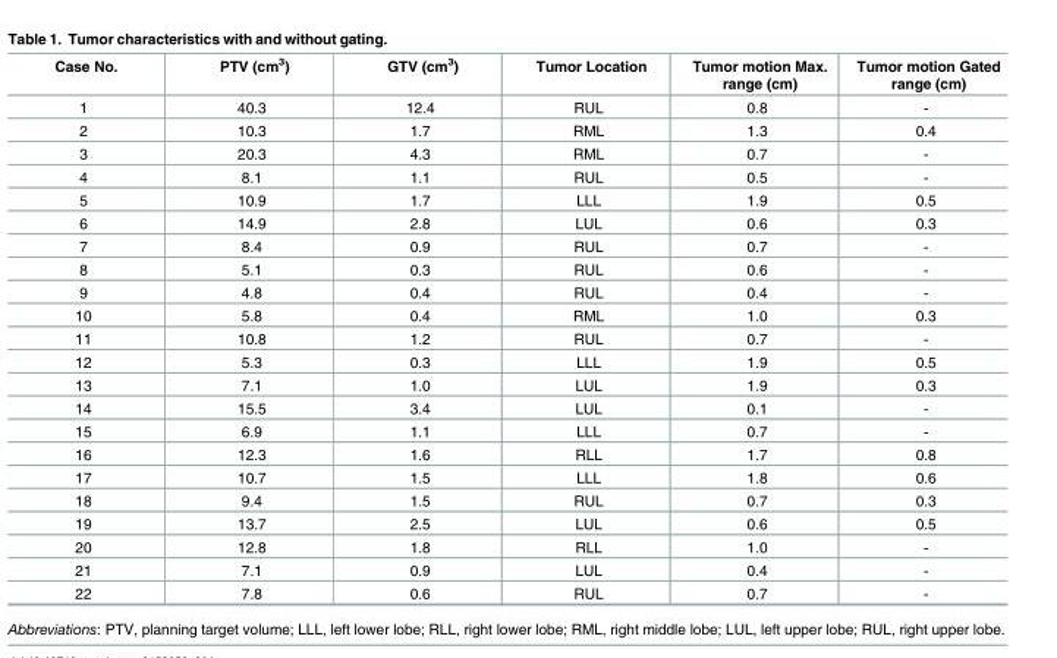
<table><thead><tr><td>Case No.</td><td>PTV (cm<sup>3</sup>)</td><td>GTV (cm<sup>3</sup>)</td><td>Tumor Location</td><td>Tumor motion Max. range (cm)</td><td>Tumor motion Gated range (cm)</td></tr></thead><tbody><tr><td>1</td><td>40.3</td><td>12.4</td><td>RUL</td><td>0.8</td><td>-</td></tr><tr><td>2</td><td>10.3</td><td>1.7</td><td>RML</td><td>1.3</td><td>0.4</td></tr><tr><td>3</td><td>20.3</td><td>4.3</td><td>RML</td><td>0.7</td><td>-</td></tr><tr><td>4</td><td>8.1</td><td>1.1</td><td>RUL</td><td>0.5</td><td>-</td></tr><tr><td>5</td><td>10.9</td><td>1.7</td><td>LLL</td><td>1.9</td><td>0.5</td></tr><tr><td>6</td><td>14.9</td><td>2.8</td><td>LUL</td><td>0.6</td><td>0.3</td></tr><tr><td>7</td><td>8.4</td><td>0.9</td><td>RUL</td><td>0.7</td><td>-</td></tr><tr><td>8</td><td>5.1</td><td>0.3</td><td>RUL</td><td>0.6</td><td>-</td></tr><tr><td>9</td><td>4.8</td><td>0.4</td><td>RUL</td><td>0.4</td><td>-</td></tr><tr><td>10</td><td>5.8</td><td>0.4</td><td>RML</td><td>1.0</td><td>0.3</td></tr><tr><td>11</td><td>10.8</td><td>1.2</td><td>RUL</td><td>0.7</td><td>-</td></tr><tr><td>12</td><td>5.3</td><td>0.3</td><td>LLL</td><td>1.9</td><td>0.5</td></tr><tr><td>13</td><td>7.1</td><td>1.0</td><td>LUL</td><td>1.9</td><td>0.3</td></tr><tr><td>14</td><td>15.5</td><td>3.4</td><td>LUL</td><td>0.1</td><td>-</td></tr><tr><td>15</td><td>6.9</td><td>1.1</td><td>LLL</td><td>0.7</td><td>-</td></tr><tr><td>16</td><td>12.3</td><td>1.6</td><td>RLL</td><td>1.7</td><td>0.8</td></tr><tr><td>17</td><td>10.7</td><td>1.5</td><td>LLL</td><td>1.8</td><td>0.6</td></tr><tr><td>18</td><td>9.4</td><td>1.5</td><td>RUL</td><td>0.7</td><td>0.3</td></tr><tr><td>19</td><td>13.7</td><td>2.5</td><td>LUL</td><td>0.6</td><td>0.5</td></tr><tr><td>20</td><td>12.8</td><td>1.8</td><td>RLL</td><td>1.0</td><td>-</td></tr><tr><td>21</td><td>7.1</td><td>0.9</td><td>LUL</td><td>0.4</td><td>-</td></tr><tr><td>22</td><td>7.8</td><td>0.6</td><td>RUL</td><td>0.7</td><td>-</td></tr></tbody></table>